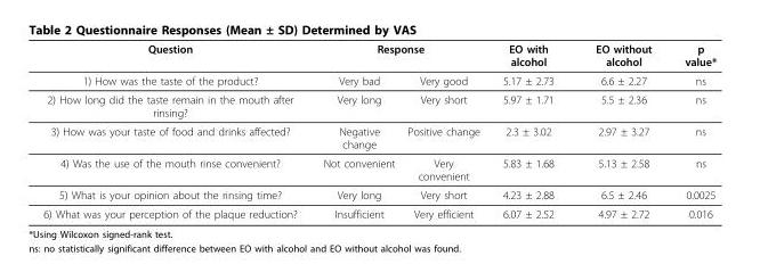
<table><thead><tr><td rowspan="2">Question 1) How was the taste of the product?</td><td colspan="2">Response</td><td rowspan="2">EO with alcohol 5.17 ± 2.73</td><td rowspan="2">EO without alcohol 6.6 ± 2.27</td><td rowspan="2">p value* ns</td></tr><tr><td>Very bad</td><td>Very good</td></tr></thead><tbody><tr><td>2) How long did the taste remain in the mouth after rinsing?</td><td>Very long</td><td>Very short</td><td>5.97 ± 1.71</td><td>5.5 ± 2.36</td><td>ns</td></tr><tr><td>3) How was your taste of food and drinks affected?</td><td>Negative change</td><td>Positive change</td><td>2.3 ± 3.02</td><td>2.97 ± 3.27</td><td>ns</td></tr><tr><td>4) Was the use of the mouth rinse convenient?</td><td>Not convenient</td><td>Very convenient</td><td>5.83 ± 1.68</td><td>5.13 ± 2.58</td><td>ns</td></tr><tr><td>5) What is your opinion about the rinsing time?</td><td>Very long</td><td>Very short</td><td>4.23 ± 2.88</td><td>6.5 ± 2.46</td><td>0.0025</td></tr><tr><td>6) What was your perception of the plaque reduction?</td><td>Insufficient</td><td>Very efficient</td><td>6.07 ± 2.52</td><td>4.97 ± 2.72</td><td>0.016</td></tr></tbody></table>